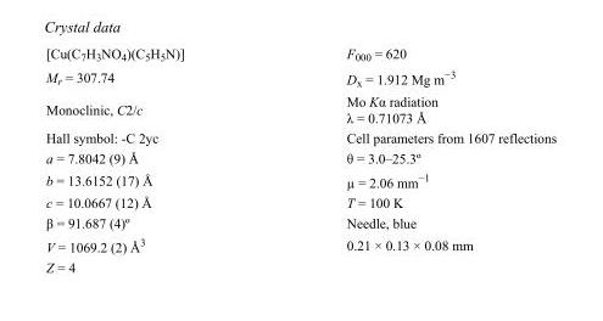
<table><tbody><tr><td>[Cu(C<sub>7</sub>H<sub>3</sub>NO<sub>4</sub>)(C<sub>5</sub>H<sub>5</sub>N)]</td><td>F000 = 620</td></tr><tr><td>M<sub>r</sub> = 307.74</td><td>D<sub>x</sub> = 1.912 Mg m<sup>−3</sup></td></tr><tr><td>Monoclinic, C2/c</td><td>Mo Kα radiation λ = 0.71073 Å</td></tr><tr><td>Hall symbol: -C 2yc</td><td>Cell parameters from 1607 reflections</td></tr><tr><td>a = 7.8042 (9) Å</td><td>θ = 3.0–25.3º</td></tr><tr><td>b = 13.6152 (17) Å</td><td>µ = 2.06 mm<sup>−1</sup></td></tr><tr><td>c = 10.0667 (12) Å</td><td>T = 100 K</td></tr><tr><td>β = 91.687 (4)º</td><td>Needle, blue</td></tr><tr><td>V = 1069.2 (2) Å<sup>3</sup></td><td>0.21 × 0.13 × 0.08 mm</td></tr><tr><td>Z = 4</td><td></td></tr></tbody></table>